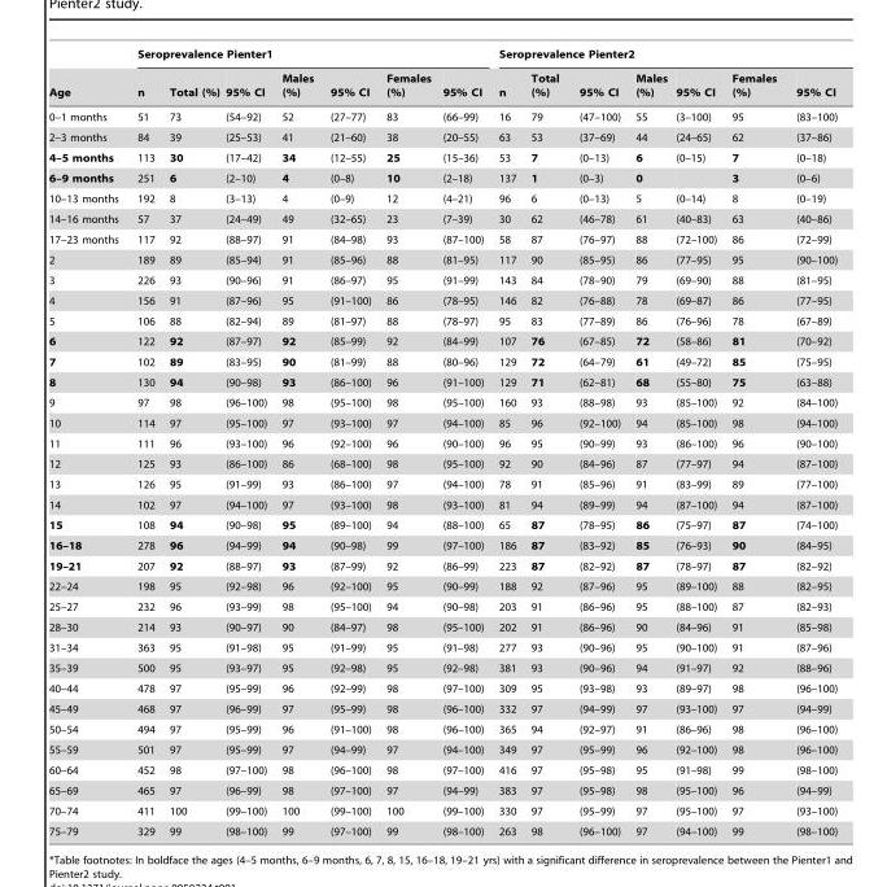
<table><thead><tr><td rowspan="2">Age</td><td colspan="7">Seroprevalence Pienter1</td><td colspan="7">Seroprevalence Pienter2</td></tr><tr><td>n</td><td>Total (%)</td><td>95% CI</td><td>Males (%)</td><td>95% CI</td><td>Females (%)</td><td>95% CI</td><td>n</td><td>Total (%)</td><td>95% CI</td><td>Males (%)</td><td>95% CI</td><td>Females (%)</td><td>95% CI</td></tr></thead><tbody><tr><td>0–1 months</td><td>51</td><td>73</td><td>(54–92)</td><td>52</td><td>(27–77)</td><td>83</td><td>(66–99)</td><td>16</td><td>79</td><td>(47–100)</td><td>55</td><td>(3–100)</td><td>95</td><td>(83–100)</td></tr><tr><td>2–3 months</td><td>84</td><td>39</td><td>(25–53)</td><td>41</td><td>(21–60)</td><td>38</td><td>(20–55)</td><td>63</td><td>53</td><td>(37–69)</td><td>44</td><td>(24–65)</td><td>62</td><td>(37–86)</td></tr><tr><td>4–5 months</td><td>113</td><td>30</td><td>(17–42)</td><td>34</td><td>(12–55)</td><td>25</td><td>(15–36)</td><td>53</td><td>7</td><td>(0–13)</td><td>6</td><td>(0–15)</td><td>7</td><td>(0–18)</td></tr><tr><td>6–9 months</td><td>251</td><td>6</td><td>(2–10)</td><td>4</td><td>(0–8)</td><td>10</td><td>(2–18)</td><td>137</td><td>1</td><td>(0–3)</td><td>0</td><td></td><td>3</td><td>(0–6)</td></tr><tr><td>10–13 months</td><td>192</td><td>8</td><td>(3–13)</td><td>4</td><td>(0–9)</td><td>12</td><td>(4–21)</td><td>96</td><td>6</td><td>(0–13)</td><td>5</td><td>(0–14)</td><td>8</td><td>(0–19)</td></tr><tr><td>14–16 months</td><td>57</td><td>37</td><td>(24–49)</td><td>49</td><td>(32–65)</td><td>23</td><td>(7–39)</td><td>30</td><td>62</td><td>(46–78)</td><td>61</td><td>(40–83)</td><td>63</td><td>(40–86)</td></tr><tr><td>17–23 months</td><td>117</td><td>92</td><td>(88–97)</td><td>91</td><td>(84–98)</td><td>93</td><td>(87–100)</td><td>58</td><td>87</td><td>(76–97)</td><td>88</td><td>(72–100)</td><td>86</td><td>(72–99)</td></tr><tr><td>2</td><td>189</td><td>89</td><td>(85–94)</td><td>91</td><td>(85–96)</td><td>88</td><td>(81–95)</td><td>117</td><td>90</td><td>(85–95)</td><td>86</td><td>(77–95)</td><td>95</td><td>(90–100)</td></tr><tr><td>3</td><td>226</td><td>93</td><td>(90–96)</td><td>91</td><td>(86–97)</td><td>95</td><td>(91–99)</td><td>143</td><td>84</td><td>(78–90)</td><td>79</td><td>(69–90)</td><td>88</td><td>(81–95)</td></tr><tr><td>4</td><td>156</td><td>91</td><td>(87–96)</td><td>95</td><td>(91–100)</td><td>86</td><td>(78–95)</td><td>146</td><td>82</td><td>(76–88)</td><td>78</td><td>(69–87)</td><td>86</td><td>(77–95)</td></tr><tr><td>5</td><td>106</td><td>88</td><td>(82–94)</td><td>89</td><td>(81–97)</td><td>88</td><td>(78–97)</td><td>95</td><td>83</td><td>(77–89)</td><td>86</td><td>(76–96)</td><td>78</td><td>(67–89)</td></tr><tr><td>6</td><td>122</td><td>92</td><td>(87–97)</td><td>92</td><td>(85–99)</td><td>92</td><td>(84–99)</td><td>107</td><td>76</td><td>(67–85)</td><td>72</td><td>(58–86)</td><td>81</td><td>(70–92)</td></tr><tr><td>7</td><td>102</td><td>89</td><td>(83–95)</td><td>90</td><td>(81–99)</td><td>88</td><td>(80–96)</td><td>129</td><td>72</td><td>(64–79)</td><td>61</td><td>(49–72)</td><td>85</td><td>(75–95)</td></tr><tr><td>8</td><td>130</td><td>94</td><td>(90–98)</td><td>93</td><td>(86–100)</td><td>96</td><td>(91–100)</td><td>129</td><td>71</td><td>(62–81)</td><td>68</td><td>(55–80)</td><td>75</td><td>(63–88)</td></tr><tr><td>9</td><td>97</td><td>98</td><td>(96–100)</td><td>98</td><td>(95–100)</td><td>98</td><td>(95–100)</td><td>160</td><td>93</td><td>(88–98)</td><td>93</td><td>(85–100)</td><td>92</td><td>(84–100)</td></tr><tr><td>10</td><td>114</td><td>97</td><td>(95–100)</td><td>97</td><td>(93–100)</td><td>97</td><td>(94–100)</td><td>85</td><td>96</td><td>(92–100)</td><td>94</td><td>(85–100)</td><td>98</td><td>(94–100)</td></tr><tr><td>11</td><td>111</td><td>96</td><td>(93–100)</td><td>96</td><td>(92–100)</td><td>96</td><td>(90–100)</td><td>96</td><td>95</td><td>(90–99)</td><td>93</td><td>(86–100)</td><td>96</td><td>(90–100)</td></tr><tr><td>12</td><td>125</td><td>93</td><td>(86–100)</td><td>86</td><td>(68–100)</td><td>98</td><td>(95–100)</td><td>92</td><td>90</td><td>(84–96)</td><td>87</td><td>(77–97)</td><td>94</td><td>(87–100)</td></tr><tr><td>13</td><td>126</td><td>95</td><td>(91–99)</td><td>93</td><td>(86–100)</td><td>97</td><td>(94–100)</td><td>78</td><td>91</td><td>(85–96)</td><td>91</td><td>(83–99)</td><td>89</td><td>(77–100)</td></tr><tr><td>14</td><td>102</td><td>97</td><td>(94–100)</td><td>97</td><td>(93–100)</td><td>98</td><td>(93–100)</td><td>81</td><td>94</td><td>(89–99)</td><td>94</td><td>(87–100)</td><td>94</td><td>(87–100)</td></tr><tr><td>15</td><td>108</td><td>94</td><td>(90–98)</td><td>95</td><td>(89–100)</td><td>94</td><td>(88–100)</td><td>65</td><td>87</td><td>(78–95)</td><td>86</td><td>(75–97)</td><td>87</td><td>(74–100)</td></tr><tr><td>16–18</td><td>278</td><td>96</td><td>(94–99)</td><td>94</td><td>(90–98)</td><td>99</td><td>(97–100)</td><td>186</td><td>87</td><td>(83–92)</td><td>85</td><td>(76–93)</td><td>90</td><td>(84–95)</td></tr><tr><td>19–21</td><td>207</td><td>92</td><td>(88–97)</td><td>93</td><td>(87–99)</td><td>92</td><td>(86–99)</td><td>223</td><td>87</td><td>(82–92)</td><td>87</td><td>(78–97)</td><td>87</td><td>(82–92)</td></tr><tr><td>22–24</td><td>198</td><td>95</td><td>(92–98)</td><td>96</td><td>(92–100)</td><td>95</td><td>(90–99)</td><td>188</td><td>92</td><td>(87–96)</td><td>95</td><td>(89–100)</td><td>88</td><td>(82–95)</td></tr><tr><td>25–27</td><td>232</td><td>96</td><td>(93–99)</td><td>98</td><td>(95–100)</td><td>94</td><td>(90–98)</td><td>203</td><td>91</td><td>(86–96)</td><td>95</td><td>(88–100)</td><td>87</td><td>(82–93)</td></tr><tr><td>28–30</td><td>214</td><td>93</td><td>(90–97)</td><td>90</td><td>(84–97)</td><td>98</td><td>(95–100)</td><td>202</td><td>91</td><td>(86–96)</td><td>90</td><td>(84–96)</td><td>91</td><td>(85–98)</td></tr><tr><td>31–34</td><td>363</td><td>95</td><td>(91–98)</td><td>95</td><td>(91–99)</td><td>95</td><td>(91–98)</td><td>277</td><td>93</td><td>(90–96)</td><td>95</td><td>(90–100)</td><td>91</td><td>(87–96)</td></tr><tr><td>35–39</td><td>500</td><td>95</td><td>(93–97)</td><td>95</td><td>(92–98)</td><td>95</td><td>(92–98)</td><td>381</td><td>93</td><td>(90–96)</td><td>94</td><td>(91–97)</td><td>92</td><td>(88–96)</td></tr><tr><td>40–44</td><td>478</td><td>97</td><td>(95–99)</td><td>96</td><td>(92–99)</td><td>98</td><td>(97–100)</td><td>309</td><td>95</td><td>(93–98)</td><td>93</td><td>(89–97)</td><td>98</td><td>(96–100)</td></tr><tr><td>45–49</td><td>468</td><td>97</td><td>(96–99)</td><td>97</td><td>(95–99)</td><td>98</td><td>(96–100)</td><td>332</td><td>97</td><td>(94–99)</td><td>97</td><td>(93–100)</td><td>97</td><td>(94–99)</td></tr><tr><td>50–54</td><td>494</td><td>97</td><td>(95–99)</td><td>96</td><td>(91–100)</td><td>98</td><td>(96–100)</td><td>365</td><td>94</td><td>(92–97)</td><td>91</td><td>(86–96)</td><td>98</td><td>(96–100)</td></tr><tr><td>55–59</td><td>501</td><td>97</td><td>(95–99)</td><td>97</td><td>(94–99)</td><td>97</td><td>(94–100)</td><td>349</td><td>97</td><td>(95–99)</td><td>96</td><td>(92–100)</td><td>98</td><td>(96–100)</td></tr><tr><td>60–64</td><td>452</td><td>98</td><td>(97–100)</td><td>98</td><td>(96–100)</td><td>98</td><td>(97–100)</td><td>416</td><td>97</td><td>(95–98)</td><td>95</td><td>(91–98)</td><td>99</td><td>(98–100)</td></tr><tr><td>65–69</td><td>465</td><td>97</td><td>(96–99)</td><td>98</td><td>(97–100)</td><td>97</td><td>(94–99)</td><td>383</td><td>97</td><td>(95–98)</td><td>98</td><td>(95–100)</td><td>96</td><td>(94–99)</td></tr><tr><td>70–74</td><td>411</td><td>100</td><td>(99–100)</td><td>100</td><td>(99–100)</td><td>100</td><td>(99–100)</td><td>330</td><td>97</td><td>(95–99)</td><td>97</td><td>(95–100)</td><td>97</td><td>(93–100)</td></tr><tr><td>75–79</td><td>329</td><td>99</td><td>(98–100)</td><td>99</td><td>(97–100)</td><td>99</td><td>(98–100)</td><td>263</td><td>98</td><td>(96–100)</td><td>97</td><td>(94–100)</td><td>99</td><td>(98–100)</td></tr></tbody></table>